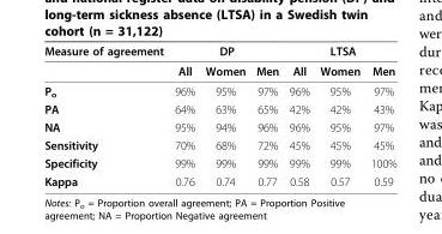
<table><thead><tr><td rowspan="2">Measure of agreement</td><td colspan="3">DP</td><td colspan="3">LTSA</td></tr><tr><td>All</td><td>Women</td><td>Men</td><td>All</td><td>Women</td><td>Men</td></tr></thead><tbody><tr><td>P<sub>o</sub></td><td>96%</td><td>95%</td><td>97%</td><td>96%</td><td>95%</td><td>97%</td></tr><tr><td>PA</td><td>64%</td><td>63%</td><td>65%</td><td>42%</td><td>42%</td><td>43%</td></tr><tr><td>NA</td><td>95%</td><td>94%</td><td>96%</td><td>96%</td><td>95%</td><td>97%</td></tr><tr><td>Sensitivity</td><td>70%</td><td>68%</td><td>72%</td><td>45%</td><td>45%</td><td>45%</td></tr><tr><td>Specificity</td><td>99%</td><td>99%</td><td>99%</td><td>99%</td><td>99%</td><td>100%</td></tr><tr><td>Kappa</td><td>0.76</td><td>0.74</td><td>0.77</td><td>0.58</td><td>0.57</td><td>0.59</td></tr></tbody></table>